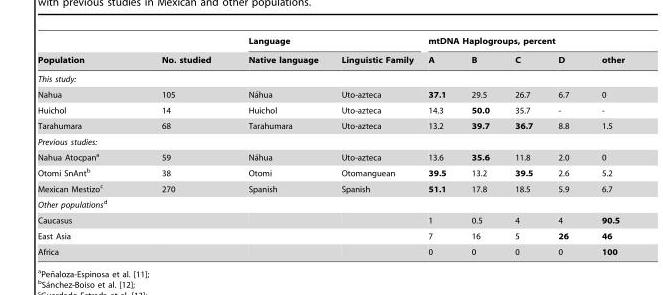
<table><thead><tr><td rowspan="2">Population</td><td rowspan="2">No. studied</td><td colspan="2">Language</td><td colspan="5">mtDNA Haplogroups, percent</td></tr><tr><td>Native language</td><td>Linguistic Family</td><td>A</td><td>B</td><td>C</td><td>D</td><td>other</td></tr></thead><tbody><tr><td colspan="9">This study:</td></tr><tr><td>Nahua</td><td>105</td><td>Na´hua</td><td>Uto-azteca</td><td>37.1</td><td>29.5</td><td>26.7</td><td>6.7</td><td>0</td></tr><tr><td>Huichol</td><td>14</td><td>Huichol</td><td>Uto-azteca</td><td>14.3</td><td>50.0</td><td>35.7</td><td>-</td><td>-</td></tr><tr><td>Tarahumara</td><td>68</td><td>Tarahumara</td><td>Uto-azteca</td><td>13.2</td><td>39.7</td><td>36.7</td><td>8.8</td><td>1.5</td></tr><tr><td colspan="9">Previous studies:</td></tr><tr><td>Nahua Atocpan<sup>a</sup></td><td>59</td><td>Na´hua</td><td>Uto-azteca</td><td>13.6</td><td>35.6</td><td>11.8</td><td>2.0</td><td>0</td></tr><tr><td>Otomi SnAnt<sup>b</sup></td><td>38</td><td>Otomi</td><td>Otomanguean</td><td>39.5</td><td>13.2</td><td>39.5</td><td>2.6</td><td>5.2</td></tr><tr><td>Mexican Mestizo<sup>c</sup></td><td>270</td><td>Spanish</td><td>Spanish</td><td>51.1</td><td>17.8</td><td>18.5</td><td>5.9</td><td>6.7</td></tr><tr><td colspan="9">Other populationsd</td></tr><tr><td>Caucasus</td><td></td><td></td><td></td><td>1</td><td>0.5</td><td>4</td><td>4</td><td>90.5</td></tr><tr><td>East Asia</td><td></td><td></td><td></td><td>7</td><td>16</td><td>5</td><td>26</td><td>46</td></tr><tr><td>Africa</td><td></td><td></td><td></td><td>0</td><td>0</td><td>0</td><td>0</td><td>100</td></tr></tbody></table>